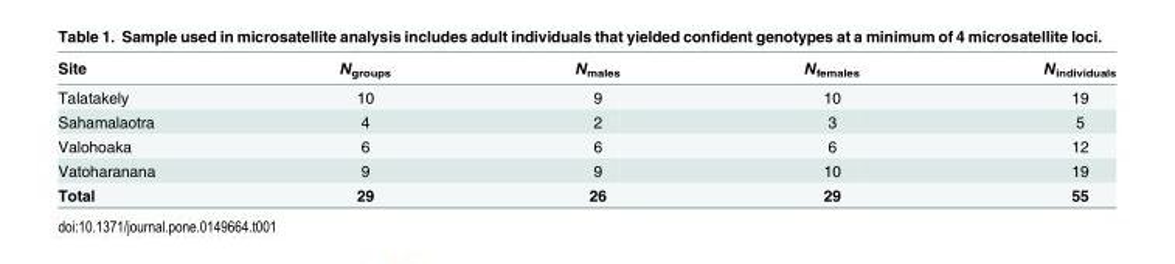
<table><thead><tr><td>Site</td><td>N<sub>groups</sub></td><td>N<sub>males</sub></td><td>N<sub>females</sub></td><td>N<sub>individuals</sub></td></tr></thead><tbody><tr><td>Talatakely</td><td>10</td><td>9</td><td>10</td><td>19</td></tr><tr><td>Sahamalaotra</td><td>4</td><td>2</td><td>3</td><td>5</td></tr><tr><td>Valohoaka</td><td>6</td><td>6</td><td>6</td><td>12</td></tr><tr><td>Vatoharanana</td><td>9</td><td>9</td><td>10</td><td>19</td></tr><tr><td>Total</td><td>29</td><td>26</td><td>29</td><td>55</td></tr></tbody></table>